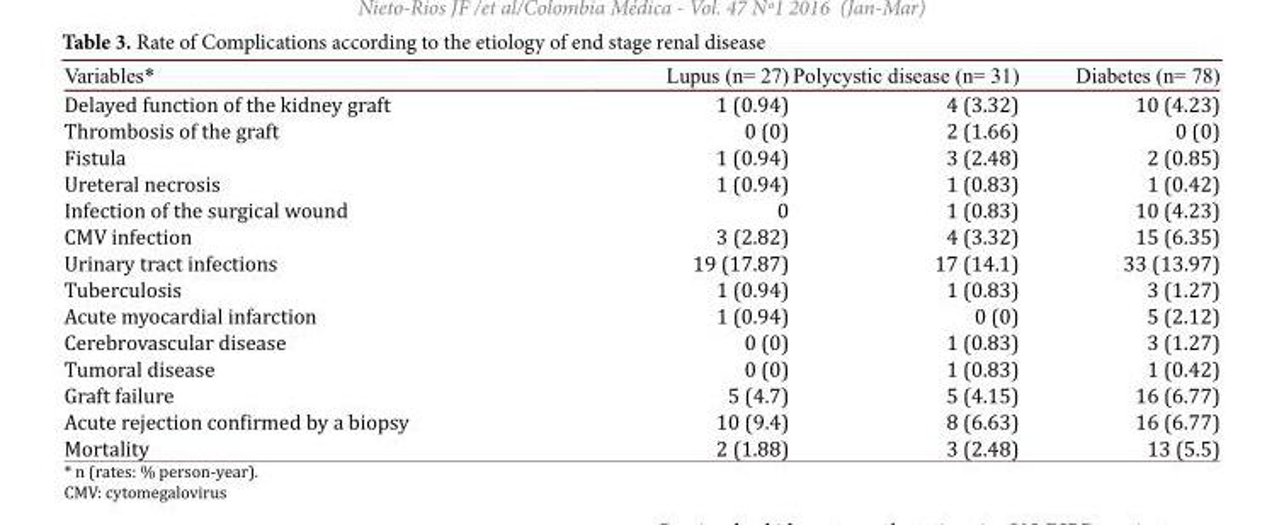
<table><thead><tr><td>Variables*</td><td>Lupus (n= 27)</td><td>Polycystic disease (n= 31)</td><td>Diabetes (n= 78)</td></tr></thead><tbody><tr><td>Delayed function of the kidney graft</td><td>1 (0.94)</td><td>4 (3.32)</td><td>10 (4.23)</td></tr><tr><td>Thrombosis of the graft</td><td>0 (0)</td><td>2 (1.66)</td><td>0 (0)</td></tr><tr><td>Fistula</td><td>1 (0.94)</td><td>3 (2.48)</td><td>2 (0.85)</td></tr><tr><td>Ureteral necrosis</td><td>1 (0.94)</td><td>1 (0.83)</td><td>1 (0.42)</td></tr><tr><td>Infection of the surgical wound</td><td>0</td><td>1 (0.83)</td><td>10 (4.23)</td></tr><tr><td>CMV infection</td><td>3 (2.82)</td><td>4 (3.32)</td><td>15 (6.35)</td></tr><tr><td>Urinary tract infections</td><td>19 (17.87)</td><td>17 (14.1)</td><td>33 (13.97)</td></tr><tr><td>Tuberculosis</td><td>1 (0.94)</td><td>1 (0.83)</td><td>3 (1.27)</td></tr><tr><td>Acute myocardial infarction</td><td>1 (0.94)</td><td>0 (0)</td><td>5 (2.12)</td></tr><tr><td>Cerebrovascular disease</td><td>0 (0)</td><td>1 (0.83)</td><td>3 (1.27)</td></tr><tr><td>Tumoral disease</td><td>0 (0)</td><td>1 (0.83)</td><td>1 (0.42)</td></tr><tr><td>Graft failure</td><td>5 (4.7)</td><td>5 (4.15)</td><td>16 (6.77)</td></tr><tr><td>Acute rejection confirmed by a biopsy</td><td>10 (9.4)</td><td>8 (6.63)</td><td>16 (6.77)</td></tr><tr><td>Mortality</td><td>2 (1.88)</td><td>3 (2.48)</td><td>13 (5.5)</td></tr></tbody></table>